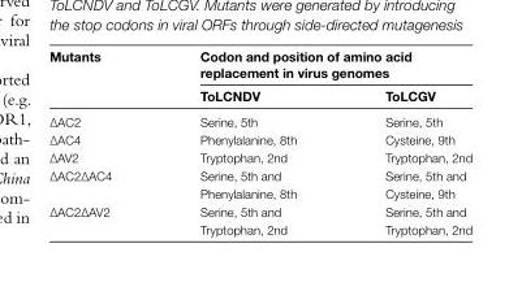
<table><thead><tr><td rowspan="2">Mutants</td><td colspan="2">Codon and position of amino acid replacement in virus genomes</td></tr><tr><td>ToLCNDV</td><td>ToLCGV</td></tr></thead><tbody><tr><td>∆AC2</td><td>Serine, 5th</td><td>Serine, 5th</td></tr><tr><td>∆AC4</td><td>Phenylalanine, 8th</td><td>Cysteine, 9th</td></tr><tr><td>∆AV2</td><td>Tryptophan, 2nd</td><td>Tryptophan, 2nd</td></tr><tr><td>∆AC2∆AC4</td><td>Serine, 5th and Phenylalanine, 8th</td><td>Serine, 5th and Cysteine, 9th</td></tr><tr><td>∆AC2∆AV2</td><td>Serine, 5th and Tryptophan, 2nd</td><td>Serine, 5th and Tryptophan, 2nd</td></tr></tbody></table>